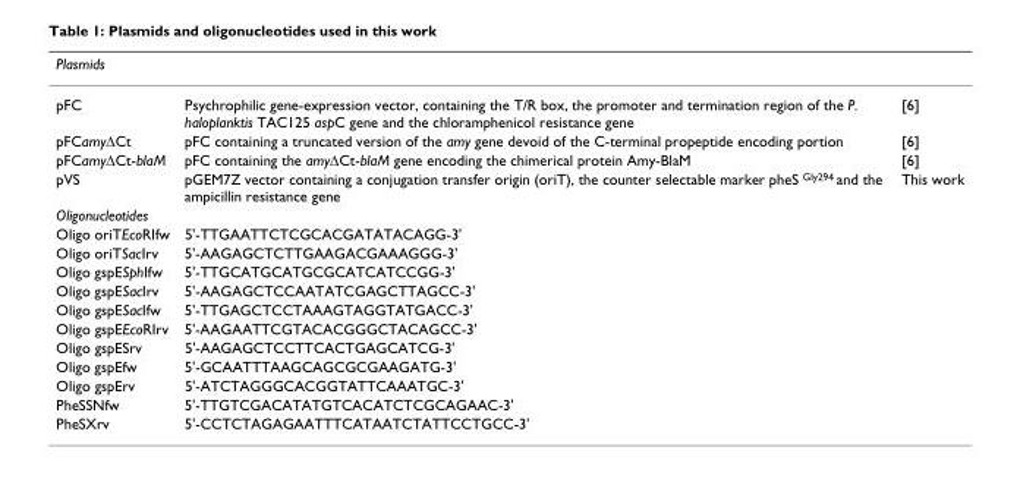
<table><thead><tr><td>Plasmids</td><td></td><td></td></tr></thead><tbody><tr><td>pFC</td><td>Psychrophilic gene-expression vector, containing the T/R box, the promoter and termination region of the P. haloplanktis TAC125 aspC gene and the chloramphenicol resistance gene</td><td>[6]</td></tr><tr><td>pFCamy∆Ct</td><td>pFC containing a truncated version of the amy gene devoid of the C-terminal propeptide encoding portion</td><td>[6]</td></tr><tr><td>pFCamy∆Ct-blaM</td><td>pFC containing the amy∆Ct-blaM gene encoding the chimerical protein Amy-BlaM</td><td>[6]</td></tr><tr><td>pVS</td><td>pGEM7Z vector containing a conjugation transfer origin (oriT), the counter selectable marker pheS <sup>Gly294</sup> and the ampicillin resistance gene</td><td>This work</td></tr><tr><td colspan="3">Oligonucleotides</td></tr><tr><td>Oligo oriTEcoRIfw</td><td>5&#x27;-TTGAATTCTCGCACGATATACAGG-3&#x27;</td><td></td></tr><tr><td>Oligo oriTSacIrv</td><td>5&#x27;-AAGAGCTCTTGAAGACGAAAGGG-3&#x27;</td><td></td></tr><tr><td>Oligo gspESphIfw</td><td>5&#x27;-TTGCATGCATGCGCATCATCCGG-3&#x27;</td><td></td></tr><tr><td>Oligo gspESacIrv</td><td>5&#x27;-AAGAGCTCCAATATCGAGCTTAGCC-3&#x27;</td><td></td></tr><tr><td>Oligo gspESacIfw</td><td>5&#x27;-TTGAGCTCCTAAAGTAGGTATGACC-3&#x27;</td><td></td></tr><tr><td>Oligo gspEEcoRIrv</td><td>5&#x27;-AAGAATTCGTACACGGGCTACAGCC-3&#x27;</td><td></td></tr><tr><td>Oligo gspESrv</td><td>5&#x27;-AAGAGCTCCTTCACTGAGCATCG-3&#x27;</td><td></td></tr><tr><td>Oligo gspEfw</td><td>5&#x27;-GCAATTTAAGCAGCGCGAAGATG-3&#x27;</td><td></td></tr><tr><td>Oligo gspErv</td><td>5&#x27;-ATCTAGGGCACGGTATTCAAATGC-3&#x27;</td><td></td></tr><tr><td>PheSSNfw</td><td>5&#x27;-TTGTCGACATATGTCACATCTCGCAGAAC-3&#x27;</td><td></td></tr><tr><td>PheSXrv</td><td>5&#x27;-CCTCTAGAGAATTTCATAATCTATTCCTGCC-3&#x27;</td><td></td></tr></tbody></table>